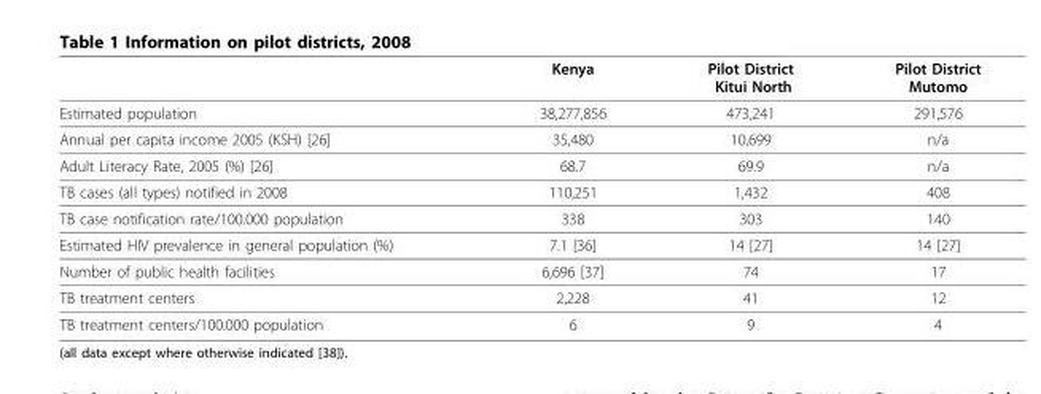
<table><thead><tr><td></td><td>Kenya</td><td>Pilot District Kitui North</td><td>Pilot District Mutomo</td></tr></thead><tbody><tr><td>Estimated population</td><td>38,277,856</td><td>473,241</td><td>291,576</td></tr><tr><td>Annual per capita income 2005 (KSH) [26]</td><td>35,480</td><td>10,699</td><td>n/a</td></tr><tr><td>Adult Literacy Rate, 2005 (%) [26]</td><td>68.7</td><td>69.9</td><td>n/a</td></tr><tr><td>TB cases (all types) notified in 2008</td><td>110,251</td><td>1,432</td><td>408</td></tr><tr><td>TB case notification rate/100.000 population</td><td>338</td><td>303</td><td>140</td></tr><tr><td>Estimated HIV prevalence in general population (%)</td><td>7.1 [36]</td><td>14 [27]</td><td>14 [27]</td></tr><tr><td>Number of public health facilities</td><td>6,696 [37]</td><td>74</td><td>17</td></tr><tr><td>TB treatment centers</td><td>2,228</td><td>41</td><td>12</td></tr><tr><td>TB treatment centers/100.000 population</td><td>6</td><td>9</td><td>4</td></tr></tbody></table>